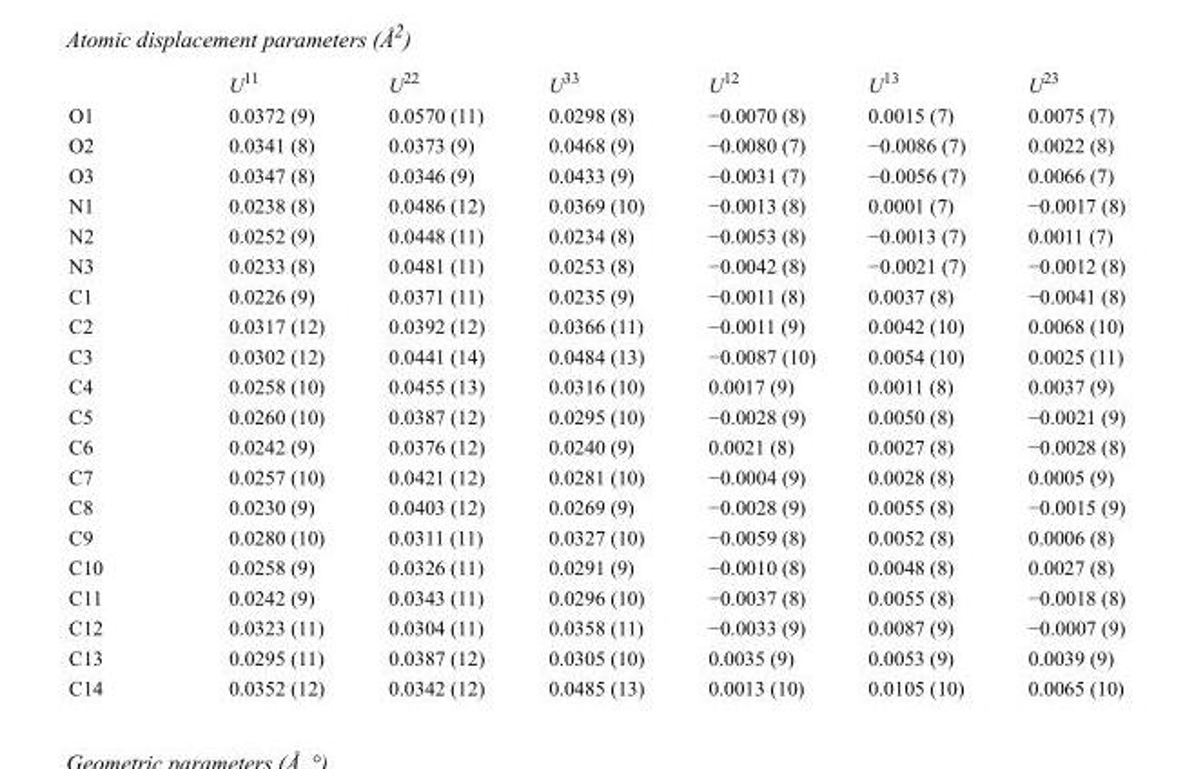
<table><thead><tr><td></td><td>U<sup>11</sup></td><td>U<sup>22</sup></td><td>U<sup>33</sup></td><td>U<sup>12</sup></td><td>U<sup>13</sup></td><td>U<sup>23</sup></td></tr></thead><tbody><tr><td>O1</td><td>0.0372 (9)</td><td>0.0570 (11)</td><td>0.0298 (8)</td><td>−0.0070 (8)</td><td>0.0015 (7)</td><td>0.0075 (7)</td></tr><tr><td>O2</td><td>0.0341 (8)</td><td>0.0373 (9)</td><td>0.0468 (9)</td><td>−0.0080 (7)</td><td>−0.0086 (7)</td><td>0.0022 (8)</td></tr><tr><td>O3</td><td>0.0347 (8)</td><td>0.0346 (9)</td><td>0.0433 (9)</td><td>−0.0031 (7)</td><td>−0.0056 (7)</td><td>0.0066 (7)</td></tr><tr><td>N1</td><td>0.0238 (8)</td><td>0.0486 (12)</td><td>0.0369 (10)</td><td>−0.0013 (8)</td><td>0.0001 (7)</td><td>−0.0017 (8)</td></tr><tr><td>N2</td><td>0.0252 (9)</td><td>0.0448 (11)</td><td>0.0234 (8)</td><td>−0.0053 (8)</td><td>−0.0013 (7)</td><td>0.0011 (7)</td></tr><tr><td>N3</td><td>0.0233 (8)</td><td>0.0481 (11)</td><td>0.0253 (8)</td><td>−0.0042 (8)</td><td>−0.0021 (7)</td><td>−0.0012 (8)</td></tr><tr><td>C1</td><td>0.0226 (9)</td><td>0.0371 (11)</td><td>0.0235 (9)</td><td>−0.0011 (8)</td><td>0.0037 (8)</td><td>−0.0041 (8)</td></tr><tr><td>C2</td><td>0.0317 (12)</td><td>0.0392 (12)</td><td>0.0366 (11)</td><td>−0.0011 (9)</td><td>0.0042 (10)</td><td>0.0068 (10)</td></tr><tr><td>C3</td><td>0.0302 (12)</td><td>0.0441 (14)</td><td>0.0484 (13)</td><td>−0.0087 (10)</td><td>0.0054 (10)</td><td>0.0025 (11)</td></tr><tr><td>C4</td><td>0.0258 (10)</td><td>0.0455 (13)</td><td>0.0316 (10)</td><td>0.0017 (9)</td><td>0.0011 (8)</td><td>0.0037 (9)</td></tr><tr><td>C5</td><td>0.0260 (10)</td><td>0.0387 (12)</td><td>0.0295 (10)</td><td>−0.0028 (9)</td><td>0.0050 (8)</td><td>−0.0021 (9)</td></tr><tr><td>C6</td><td>0.0242 (9)</td><td>0.0376 (12)</td><td>0.0240 (9)</td><td>0.0021 (8)</td><td>0.0027 (8)</td><td>−0.0028 (8)</td></tr><tr><td>C7</td><td>0.0257 (10)</td><td>0.0421 (12)</td><td>0.0281 (10)</td><td>−0.0004 (9)</td><td>0.0028 (8)</td><td>0.0005 (9)</td></tr><tr><td>C8</td><td>0.0230 (9)</td><td>0.0403 (12)</td><td>0.0269 (9)</td><td>−0.0028 (9)</td><td>0.0055 (8)</td><td>−0.0015 (9)</td></tr><tr><td>C9</td><td>0.0280 (10)</td><td>0.0311 (11)</td><td>0.0327 (10)</td><td>−0.0059 (8)</td><td>0.0052 (8)</td><td>0.0006 (8)</td></tr><tr><td>C10</td><td>0.0258 (9)</td><td>0.0326 (11)</td><td>0.0291 (9)</td><td>−0.0010 (8)</td><td>0.0048 (8)</td><td>0.0027 (8)</td></tr><tr><td>C11</td><td>0.0242 (9)</td><td>0.0343 (11)</td><td>0.0296 (10)</td><td>−0.0037 (8)</td><td>0.0055 (8)</td><td>−0.0018 (8)</td></tr><tr><td>C12</td><td>0.0323 (11)</td><td>0.0304 (11)</td><td>0.0358 (11)</td><td>−0.0033 (9)</td><td>0.0087 (9)</td><td>−0.0007 (9)</td></tr><tr><td>C13</td><td>0.0295 (11)</td><td>0.0387 (12)</td><td>0.0305 (10)</td><td>0.0035 (9)</td><td>0.0053 (9)</td><td>0.0039 (9)</td></tr><tr><td>C14</td><td>0.0352 (12)</td><td>0.0342 (12)</td><td>0.0485 (13)</td><td>0.0013 (10)</td><td>0.0105 (10)</td><td>0.0065 (10)</td></tr></tbody></table>